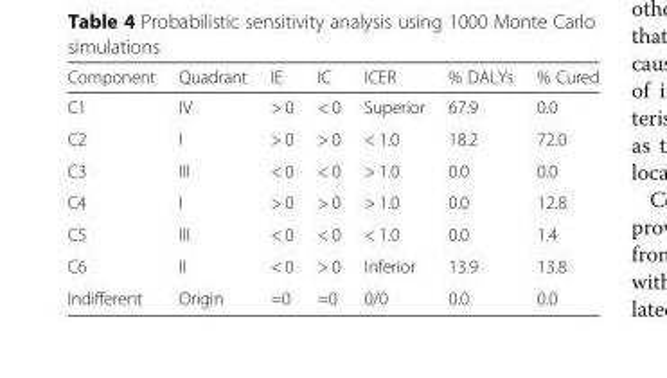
<table><thead><tr><td>Component</td><td>Quadrant</td><td>IE</td><td>IC</td><td>ICER</td><td>% DALYs</td><td>% Cured</td></tr></thead><tbody><tr><td>C1</td><td>IV</td><td>&gt; 0</td><td>&lt; 0</td><td>Superior</td><td>67.9</td><td>0.0</td></tr><tr><td>C2</td><td>I</td><td>&gt; 0</td><td>&gt; 0</td><td>&lt; 1.0</td><td>18.2</td><td>72.0</td></tr><tr><td>C3</td><td>III</td><td>&lt; 0</td><td>&lt; 0</td><td>&gt; 1.0</td><td>0.0</td><td>0.0</td></tr><tr><td>C4</td><td>I</td><td>&gt; 0</td><td>&gt; 0</td><td>&gt; 1.0</td><td>0.0</td><td>12.8</td></tr><tr><td>C5</td><td>III</td><td>&lt; 0</td><td>&lt; 0</td><td>&lt; 1.0</td><td>0.0</td><td>1.4</td></tr><tr><td>C6</td><td>II</td><td>&lt; 0</td><td>&gt; 0</td><td>Inferior</td><td>13.9</td><td>13.8</td></tr><tr><td>Indifferent</td><td>Origin</td><td>=0</td><td>=0</td><td>0/0</td><td>0.0</td><td>0.0</td></tr></tbody></table>